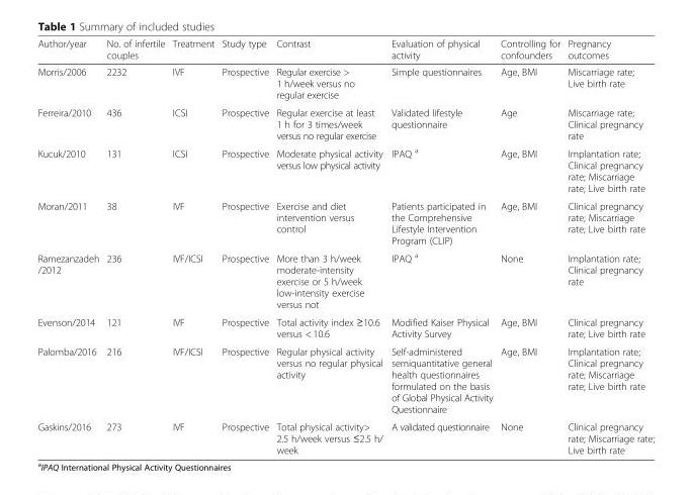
<table><thead><tr><td>Author/year</td><td>No. of infertile couples</td><td>Treatment</td><td>Study type</td><td>Contrast</td><td>Evaluation of physical activity</td><td>Controlling for confounders</td><td>Pregnancy outcomes</td></tr></thead><tbody><tr><td>Morris/2006</td><td>2232</td><td>IVF</td><td>Prospective</td><td>Regular exercise &gt; 1 h/week versus no regular exercise</td><td>Simple questionnaires</td><td>Age, BMI</td><td>Miscarriage rate; Live birth rate</td></tr><tr><td>Ferreira/2010</td><td>436</td><td>ICSI</td><td>Prospective</td><td>Regular exercise at least 1 h for 3 times/week versus no regular exercise</td><td>Validated lifestyle questionnaire</td><td>Age</td><td>Miscarriage rate; Clinical pregnancy rate</td></tr><tr><td>Kucuk/2010</td><td>131</td><td>ICSI</td><td>Prospective</td><td>Moderate physical activity versus low physical activity</td><td>IPAQ <sup>a</sup></td><td>Age, BMI</td><td>Implantation rate; Clinical pregnancy rate; Miscarriage rate; Live birth rate</td></tr><tr><td>Moran/2011</td><td>38</td><td>IVF</td><td>Prospective</td><td>Exercise and diet intervention versus control</td><td>Patients participated in the Comprehensive Lifestyle Intervention Program (CLIP)</td><td>Age, BMI</td><td>Clinical pregnancy rate; Miscarriage rate; Live birth rate</td></tr><tr><td>Ramezanzadeh /2012</td><td>236</td><td>IVF/ICSI</td><td>Prospective</td><td>More than 3 h/week moderate-intensity exercise or 5 h/week low-intensity exercise versus not</td><td>IPAQ <sup>a</sup></td><td>None</td><td>Implantation rate; Clinical pregnancy rate</td></tr><tr><td>Evenson/2014</td><td>121</td><td>IVF</td><td>Prospective</td><td>Total activity index ≥10.6 versus &lt; 10.6</td><td>Modified Kaiser Physical Activity Survey</td><td>Age, BMI</td><td>Clinical pregnancy rate; Live birth rate</td></tr><tr><td>Palomba/2016</td><td>216</td><td>IVF/ICSI</td><td>Prospective</td><td>Regular physical activity versus no regular physical activity</td><td>Self-administered semiquantitative general health questionnaires formulated on the basis of Global Physical Activity Questionnaire</td><td>Age, BMI</td><td>Implantation rate; Clinical pregnancy rate; Miscarriage rate; Live birth rate</td></tr><tr><td>Gaskins/2016</td><td>273</td><td>IVF</td><td>Prospective</td><td>Total physical activity&gt; 2.5 h/week versus ≤2.5 h/ week</td><td>A validated questionnaire</td><td>None</td><td>Clinical pregnancy rate; Miscarriage rate; Live birth rate</td></tr></tbody></table>